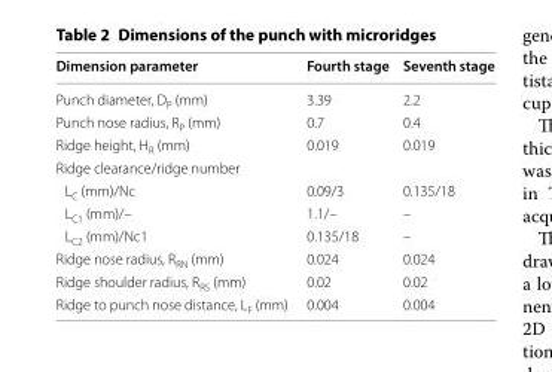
<table><thead><tr><td>Dimension parameter</td><td>Fourth stage</td><td>Seventh stage</td></tr></thead><tbody><tr><td>Punch diameter, D<sub>P</sub> (mm)</td><td>3.39</td><td>2.2</td></tr><tr><td>Punch nose radius, R<sub>P</sub> (mm)</td><td>0.7</td><td>0.4</td></tr><tr><td>Ridge height, H<sub>R</sub> (mm)</td><td>0.019</td><td>0.019</td></tr><tr><td colspan="3">Ridge clearance/ridge number</td></tr><tr><td>L<sub>C</sub> (mm)/Nc</td><td>0.09/3</td><td>0.135/18</td></tr><tr><td>L<sub>C1</sub> (mm)/–</td><td>1.1/–</td><td>–</td></tr><tr><td>L<sub>C2</sub> (mm)/Nc1</td><td>0.135/18</td><td>–</td></tr><tr><td>Ridge nose radius, R<sub>RN</sub> (mm)</td><td>0.024</td><td>0.024</td></tr><tr><td>Ridge shoulder radius, R<sub>RS</sub> (mm)</td><td>0.02</td><td>0.02</td></tr><tr><td>Ridge to punch nose distance, L<sub>F</sub> (mm)</td><td>0.004</td><td>0.004</td></tr></tbody></table>